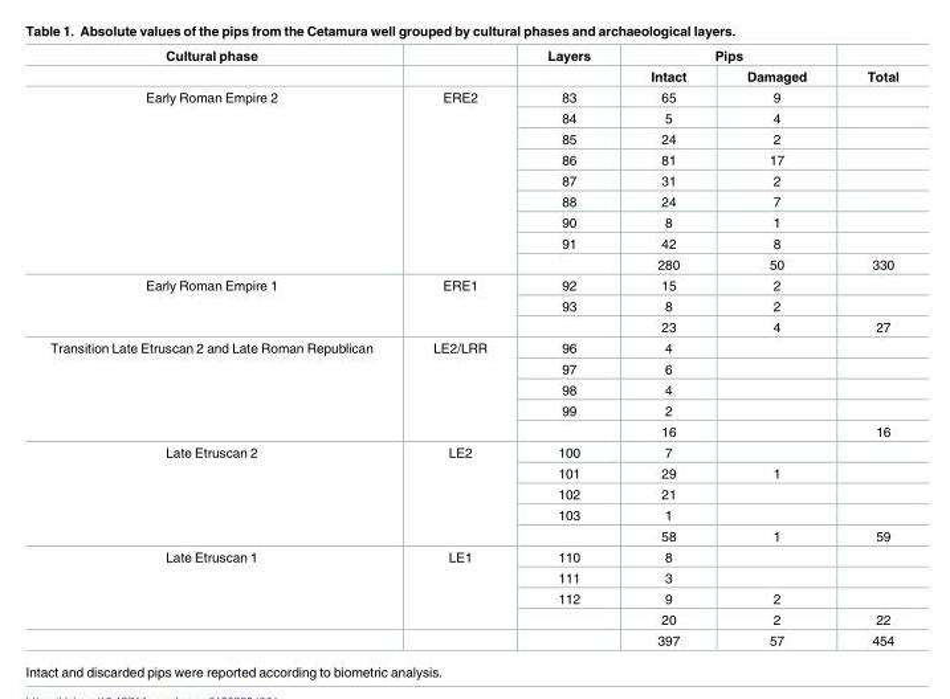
<table><thead><tr><td rowspan="2">Cultural phase</td><td rowspan="2"></td><td rowspan="2">Layers</td><td colspan="2">Pips</td><td rowspan="2">Total</td></tr><tr><td>Intact</td><td>Damaged</td></tr></thead><tbody><tr><td rowspan="9">Early Roman Empire 2</td><td rowspan="9">ERE2</td><td>83</td><td>65</td><td>9</td><td></td></tr><tr><td>84</td><td>5</td><td>4</td><td></td></tr><tr><td>85</td><td>24</td><td>2</td><td></td></tr><tr><td>86</td><td>81</td><td>17</td><td></td></tr><tr><td>87</td><td>31</td><td>2</td><td></td></tr><tr><td>88</td><td>24</td><td>7</td><td></td></tr><tr><td>90</td><td>8</td><td>1</td><td></td></tr><tr><td>91</td><td>42</td><td>8</td><td></td></tr><tr><td></td><td>280</td><td>50</td><td>330</td></tr><tr><td rowspan="3">Early Roman Empire 1</td><td rowspan="3">ERE1</td><td>92</td><td>15</td><td>2</td><td></td></tr><tr><td>93</td><td>8</td><td>2</td><td></td></tr><tr><td></td><td>23</td><td>4</td><td>27</td></tr><tr><td rowspan="5">Transition Late Etruscan 2 and Late Roman Republican</td><td rowspan="5">LE2/LRR</td><td>96</td><td>4</td><td></td><td></td></tr><tr><td>97</td><td>6</td><td></td><td></td></tr><tr><td>98</td><td>4</td><td></td><td></td></tr><tr><td>99</td><td>2</td><td></td><td></td></tr><tr><td></td><td>16</td><td></td><td>16</td></tr><tr><td rowspan="5">Late Etruscan 2</td><td rowspan="5">LE2</td><td>100</td><td>7</td><td></td><td></td></tr><tr><td>101</td><td>29</td><td>1</td><td></td></tr><tr><td>102</td><td>21</td><td></td><td></td></tr><tr><td>103</td><td>1</td><td></td><td></td></tr><tr><td></td><td>58</td><td>1</td><td>59</td></tr><tr><td rowspan="5">Late Etruscan 1</td><td rowspan="4">LE1</td><td>110</td><td>8</td><td></td><td></td></tr><tr><td>111</td><td>3</td><td></td><td></td></tr><tr><td>112</td><td>9</td><td>2</td><td></td></tr><tr><td></td><td>20</td><td>2</td><td>22</td></tr><tr><td></td><td></td><td>397</td><td>57</td><td>454</td></tr></tbody></table>